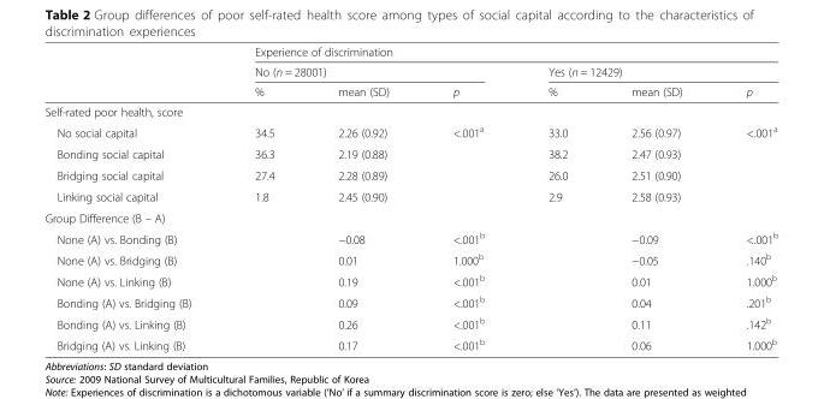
<table><thead><tr><td rowspan="3"></td><td colspan="6">Experience of discrimination</td></tr><tr><td colspan="3">No (n = 28001)</td><td colspan="3">Yes (n = 12429)</td></tr><tr><td>%</td><td>mean (SD)</td><td>p</td><td>%</td><td>mean (SD)</td><td>p</td></tr></thead><tbody><tr><td colspan="7">Self-rated poor health, score</td></tr><tr><td>No social capital</td><td>34.5</td><td>2.26 (0.92)</td><td>&lt;.001<sup>a</sup></td><td>33.0</td><td>2.56 (0.97)</td><td>&lt;.001<sup>a</sup></td></tr><tr><td>Bonding social capital</td><td>36.3</td><td>2.19 (0.88)</td><td></td><td>38.2</td><td>2.47 (0.93)</td><td></td></tr><tr><td>Bridging social capital</td><td>27.4</td><td>2.28 (0.89)</td><td></td><td>26.0</td><td>2.51 (0.90)</td><td></td></tr><tr><td>Linking social capital</td><td>1.8</td><td>2.45 (0.90)</td><td></td><td>2.9</td><td>2.58 (0.93)</td><td></td></tr><tr><td colspan="7">Group Difference (B – A)</td></tr><tr><td>None (A) vs. Bonding (B)</td><td></td><td>−0.08</td><td>&lt;.001<sup>b</sup></td><td></td><td>−0.09</td><td>&lt;.001<sup>b</sup></td></tr><tr><td>None (A) vs. Bridging (B)</td><td></td><td>0.01</td><td>1.000<sup>b</sup></td><td></td><td>−0.05</td><td>.140<sup>b</sup></td></tr><tr><td>None (A) vs. Linking (B)</td><td></td><td>0.19</td><td>&lt;.001<sup>b</sup></td><td></td><td>0.01</td><td>1.000<sup>b</sup></td></tr><tr><td>Bonding (A) vs. Bridging (B)</td><td></td><td>0.09</td><td>&lt;.001<sup>b</sup></td><td></td><td>0.04</td><td>.201<sup>b</sup></td></tr><tr><td>Bonding (A) vs. Linking (B)</td><td></td><td>0.26</td><td>&lt;.001<sup>b</sup></td><td></td><td>0.11</td><td>.142<sup>b</sup></td></tr><tr><td>Bridging (A) vs. Linking (B)</td><td></td><td>0.17</td><td>&lt;.001<sup>b</sup></td><td></td><td>0.06</td><td>1.000<sup>b</sup></td></tr></tbody></table>